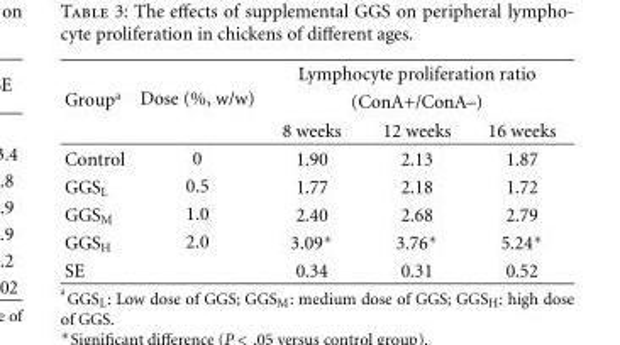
<table><thead><tr><td rowspan="3">Group<sup>a</sup></td><td rowspan="3">Dose (%, w/w)</td><td rowspan="2" colspan="3">Lymphocyte proliferation ratio (ConA+/ConA–)</td></tr><tr></tr><tr><td>8 weeks</td><td>12 weeks</td><td>16 weeks</td></tr></thead><tbody><tr><td>Control</td><td>0</td><td>1.90</td><td>2.13</td><td>1.87</td></tr><tr><td>GGS<sub>L</sub></td><td>0.5</td><td>1.77</td><td>2.18</td><td>1.72</td></tr><tr><td>GGS<sub>M</sub></td><td>1.0</td><td>2.40</td><td>2.68</td><td>2.79</td></tr><tr><td>GGS<sub>H</sub></td><td>2.0</td><td>3.09∗</td><td>3.76∗</td><td>5.24∗</td></tr><tr><td>SE</td><td></td><td>0.34</td><td>0.31</td><td>0.52</td></tr></tbody></table>